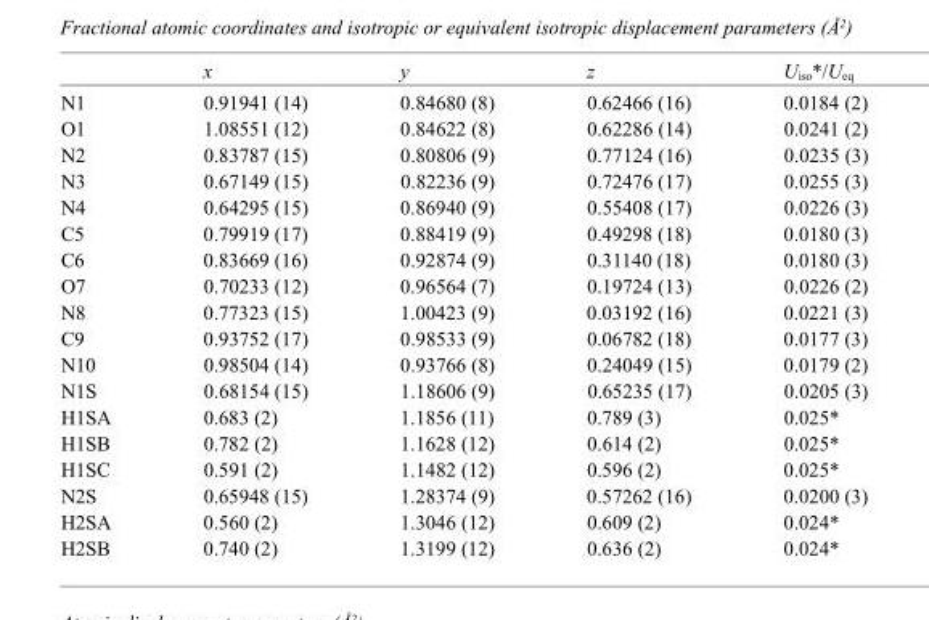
<table><thead><tr><td></td><td>x</td><td>y</td><td>z</td><td>U<sub>iso</sub>*/U<sub>eq</sub></td></tr></thead><tbody><tr><td>N1</td><td>0.91941 (14)</td><td>0.84680 (8)</td><td>0.62466 (16)</td><td>0.0184 (2)</td></tr><tr><td>O1</td><td>1.08551 (12)</td><td>0.84622 (8)</td><td>0.62286 (14)</td><td>0.0241 (2)</td></tr><tr><td>N2</td><td>0.83787 (15)</td><td>0.80806 (9)</td><td>0.77124 (16)</td><td>0.0235 (3)</td></tr><tr><td>N3</td><td>0.67149 (15)</td><td>0.82236 (9)</td><td>0.72476 (17)</td><td>0.0255 (3)</td></tr><tr><td>N4</td><td>0.64295 (15)</td><td>0.86940 (9)</td><td>0.55408 (17)</td><td>0.0226 (3)</td></tr><tr><td>C5</td><td>0.79919 (17)</td><td>0.88419 (9)</td><td>0.49298 (18)</td><td>0.0180 (3)</td></tr><tr><td>C6</td><td>0.83669 (16)</td><td>0.92874 (9)</td><td>0.31140 (18)</td><td>0.0180 (3)</td></tr><tr><td>O7</td><td>0.70233 (12)</td><td>0.96564 (7)</td><td>0.19724 (13)</td><td>0.0226 (2)</td></tr><tr><td>N8</td><td>0.77323 (15)</td><td>1.00423 (9)</td><td>0.03192 (16)</td><td>0.0221 (3)</td></tr><tr><td>C9</td><td>0.93752 (17)</td><td>0.98533 (9)</td><td>0.06782 (18)</td><td>0.0177 (3)</td></tr><tr><td>N10</td><td>0.98504 (14)</td><td>0.93766 (8)</td><td>0.24049 (15)</td><td>0.0179 (2)</td></tr><tr><td>N1S</td><td>0.68154 (15)</td><td>1.18606 (9)</td><td>0.65235 (17)</td><td>0.0205 (3)</td></tr><tr><td>H1SA</td><td>0.683 (2)</td><td>1.1856 (11)</td><td>0.789 (3)</td><td>0.025*</td></tr><tr><td>H1SB</td><td>0.782 (2)</td><td>1.1628 (12)</td><td>0.614 (2)</td><td>0.025*</td></tr><tr><td>H1SC</td><td>0.591 (2)</td><td>1.1482 (12)</td><td>0.596 (2)</td><td>0.025*</td></tr><tr><td>N2S</td><td>0.65948 (15)</td><td>1.28374 (9)</td><td>0.57262 (16)</td><td>0.0200 (3)</td></tr><tr><td>H2SA</td><td>0.560 (2)</td><td>1.3046 (12)</td><td>0.609 (2)</td><td>0.024*</td></tr><tr><td>H2SB</td><td>0.740 (2)</td><td>1.3199 (12)</td><td>0.636 (2)</td><td>0.024*</td></tr></tbody></table>